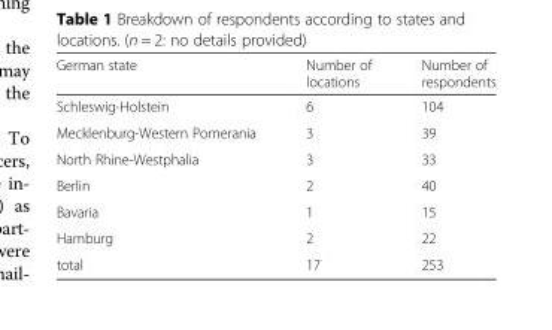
<table><thead><tr><td>German state</td><td>Number of locations</td><td>Number of respondents</td></tr></thead><tbody><tr><td>Schleswig-Holstein</td><td>6</td><td>104</td></tr><tr><td>Mecklenburg-Western Pomerania</td><td>3</td><td>39</td></tr><tr><td>North Rhine-Westphalia</td><td>3</td><td>33</td></tr><tr><td>Berlin</td><td>2</td><td>40</td></tr><tr><td>Bavaria</td><td>1</td><td>15</td></tr><tr><td>Hamburg</td><td>2</td><td>22</td></tr><tr><td>total</td><td>17</td><td>253</td></tr></tbody></table>